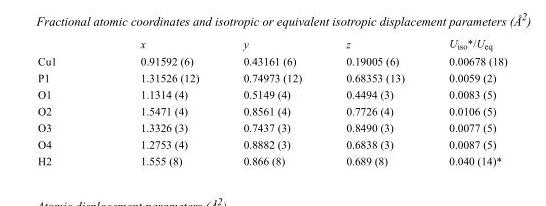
<table><thead><tr><td></td><td>x</td><td>y</td><td>z</td><td>U<sub>iso</sub>*/U<sub>eq</sub></td></tr></thead><tbody><tr><td>Cu1</td><td>0.91592 (6)</td><td>0.43161 (6)</td><td>0.19005 (6)</td><td>0.00678 (18)</td></tr><tr><td>P1</td><td>1.31526 (12)</td><td>0.74973 (12)</td><td>0.68353 (13)</td><td>0.0059 (2)</td></tr><tr><td>O1</td><td>1.1314 (4)</td><td>0.5149 (4)</td><td>0.4494 (3)</td><td>0.0083 (5)</td></tr><tr><td>O2</td><td>1.5471 (4)</td><td>0.8561 (4)</td><td>0.7726 (4)</td><td>0.0106 (5)</td></tr><tr><td>O3</td><td>1.3326 (3)</td><td>0.7437 (3)</td><td>0.8490 (3)</td><td>0.0077 (5)</td></tr><tr><td>O4</td><td>1.2753 (4)</td><td>0.8882 (3)</td><td>0.6838 (3)</td><td>0.0087 (5)</td></tr><tr><td>H2</td><td>1.555 (8)</td><td>0.866 (8)</td><td>0.689 (8)</td><td>0.040 (14)*</td></tr></tbody></table>